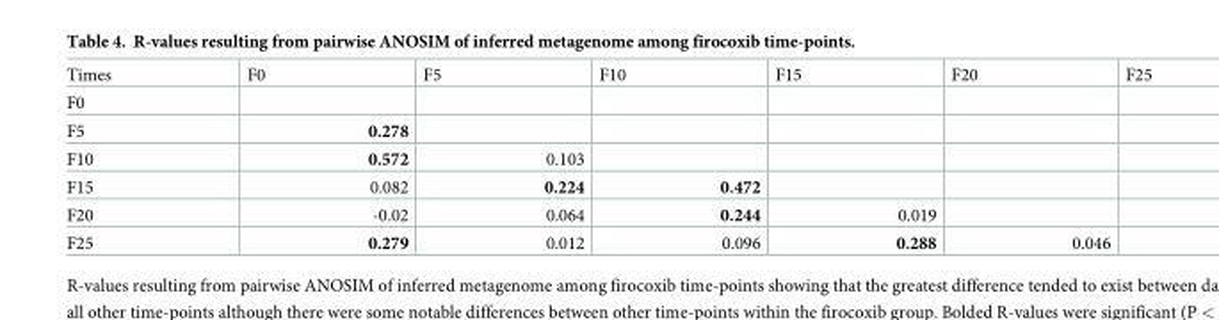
<table><tbody><tr><td>Times</td><td>F0</td><td>F5</td><td>F10</td><td>F15</td><td>F20</td><td>F25</td></tr><tr><td colspan="7">F0</td></tr><tr><td>F5</td><td>0.278</td><td></td><td></td><td></td><td></td><td></td></tr><tr><td>F10</td><td>0.572</td><td>0.103</td><td></td><td></td><td></td><td></td></tr><tr><td>F15</td><td>0.082</td><td>0.224</td><td>0.472</td><td></td><td></td><td></td></tr><tr><td>F20</td><td>-0.02</td><td>0.064</td><td>0.244</td><td>0.019</td><td></td><td></td></tr><tr><td>F25</td><td>0.279</td><td>0.012</td><td>0.096</td><td>0.288</td><td>0.046</td><td></td></tr></tbody></table>